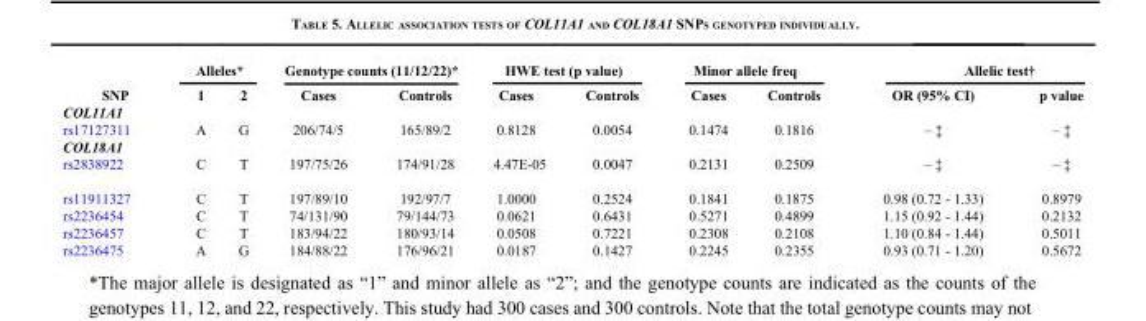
<table><thead><tr><td rowspan="2">SNP</td><td colspan="2">Alleles*</td><td colspan="2">Genotype counts (11/12/22)*</td><td colspan="2">HWE test (p value)</td><td colspan="2">Minor allele freq</td><td colspan="2">Allelic test†</td></tr><tr><td>1</td><td>2</td><td>Cases</td><td>Controls</td><td>Cases</td><td>Controls</td><td>Cases</td><td>Controls</td><td>OR (95% CI)</td><td>p value</td></tr></thead><tbody><tr><td colspan="11">COL11A1</td></tr><tr><td>rs17127311</td><td>A</td><td>G</td><td>206/74/5</td><td>165/89/2</td><td>0.8128</td><td>0.0054</td><td>0.1474</td><td>0.1816</td><td>– ‡</td><td>– ‡</td></tr><tr><td colspan="11">COL18A1</td></tr><tr><td>rs2838922</td><td>C</td><td>T</td><td>197/75/26</td><td>174/91/28</td><td>4.47E-05</td><td>0.0047</td><td>0.2131</td><td>0.2509</td><td>– ‡</td><td>– ‡</td></tr><tr><td>rs11911327</td><td>C</td><td>T</td><td>197/89/10</td><td>192/97/7</td><td>1.0000</td><td>0.2524</td><td>0.1841</td><td>0.1875</td><td>0.98 (0.72 - 1.33)</td><td>0.8979</td></tr><tr><td>rs2236454</td><td>C</td><td>T</td><td>74/131/90</td><td>79/144/73</td><td>0.0621</td><td>0.6431</td><td>0.5271</td><td>0.4899</td><td>1.15 (0.92 - 1.44)</td><td>0.2132</td></tr><tr><td>rs2236457</td><td>C</td><td>T</td><td>183/94/22</td><td>180/93/14</td><td>0.0508</td><td>0.7221</td><td>0.2308</td><td>0.2108</td><td>1.10 (0.84 - 1.44)</td><td>0.5011</td></tr><tr><td>rs2236475</td><td>A</td><td>G</td><td>184/88/22</td><td>176/96/21</td><td>0.0187</td><td>0.1427</td><td>0.2245</td><td>0.2355</td><td>0.93 (0.71 - 1.20)</td><td>0.5672</td></tr></tbody></table>